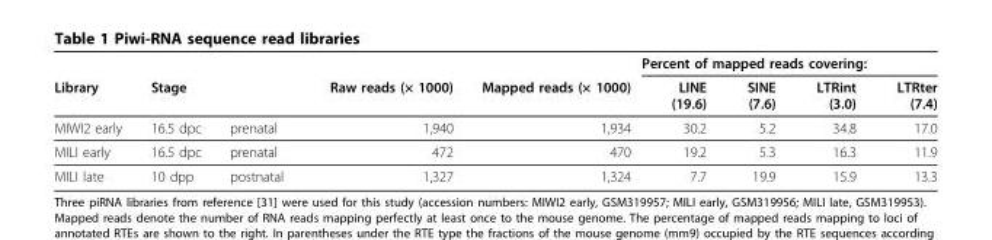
<table><thead><tr><td rowspan="2">Library</td><td rowspan="2">Stage</td><td rowspan="2"></td><td rowspan="2">Raw reads (× 1000)</td><td rowspan="2">Mapped reads (× 1000)</td><td colspan="4">Percent of mapped reads covering:</td></tr><tr><td>LINE (19.6)</td><td>SINE (7.6)</td><td>LTRint (3.0)</td><td>LTRter (7.4)</td></tr></thead><tbody><tr><td>MIWI2 early</td><td>16.5 dpc</td><td>prenatal</td><td>1,940</td><td>1,934</td><td>30.2</td><td>5.2</td><td>34.8</td><td>17.0</td></tr><tr><td>MILI early</td><td>16.5 dpc</td><td>prenatal</td><td>472</td><td>470</td><td>19.2</td><td>5.3</td><td>16.3</td><td>11.9</td></tr><tr><td>MILI late</td><td>10 dpp</td><td>postnatal</td><td>1,327</td><td>1,324</td><td>7.7</td><td>19.9</td><td>15.9</td><td>13.3</td></tr></tbody></table>